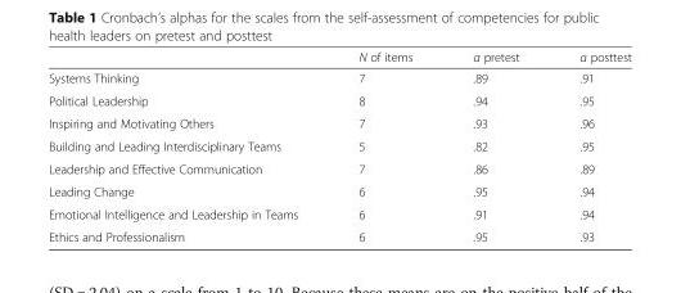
<table><thead><tr><td></td><td>N of items</td><td>α pretest</td><td>α posttest</td></tr></thead><tbody><tr><td>Systems Thinking</td><td>7</td><td>.89</td><td>.91</td></tr><tr><td>Political Leadership</td><td>8</td><td>.94</td><td>.95</td></tr><tr><td>Inspiring and Motivating Others</td><td>7</td><td>.93</td><td>.96</td></tr><tr><td>Building and Leading Interdisciplinary Teams</td><td>5</td><td>.82</td><td>.95</td></tr><tr><td>Leadership and Effective Communication</td><td>7</td><td>.86</td><td>.89</td></tr><tr><td>Leading Change</td><td>6</td><td>.95</td><td>.94</td></tr><tr><td>Emotional Intelligence and Leadership in Teams</td><td>6</td><td>.91</td><td>.94</td></tr><tr><td>Ethics and Professionalism</td><td>6</td><td>.95</td><td>.93</td></tr></tbody></table>